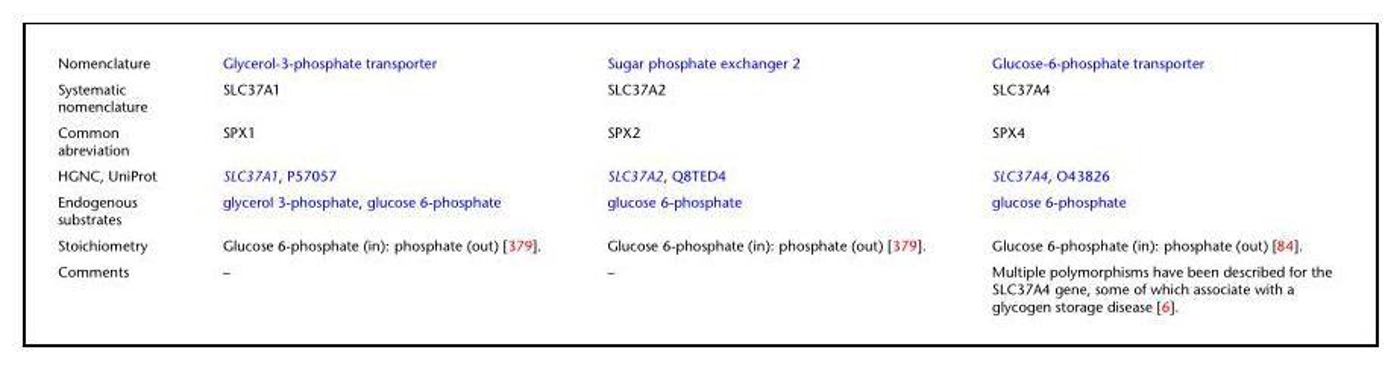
<table><tbody><tr><td>Nomenclature</td><td>Glycerol-3-phosphate transporter</td><td>Sugar phosphate exchanger 2</td><td>Glucose-6-phosphate transporter</td></tr><tr><td>Systematic nomenclature</td><td>SLC37A1</td><td>SLC37A2</td><td>SLC37A4</td></tr><tr><td>Common abreviation</td><td>SPX1</td><td>SPX2</td><td>SPX4</td></tr><tr><td>HGNC, UniProt</td><td>SLC37A1, P57057</td><td>SLC37A2, Q8TED4</td><td>SLC37A4, O43826</td></tr><tr><td>Endogenous substrates</td><td>glycerol 3-phosphate, glucose 6-phosphate</td><td>glucose 6-phosphate</td><td>glucose 6-phosphate</td></tr><tr><td>Stoichiometry</td><td>Glucose 6-phosphate (in): phosphate (out) [379].</td><td>Glucose 6-phosphate (in): phosphate (out) [379].</td><td>Glucose 6-phosphate (in): phosphate (out) [84].</td></tr><tr><td>Comments</td><td>–</td><td>–</td><td>Multiple polymorphisms have been described for the SLC37A4 gene, some of which associate with a glycogen storage disease [6].</td></tr></tbody></table>